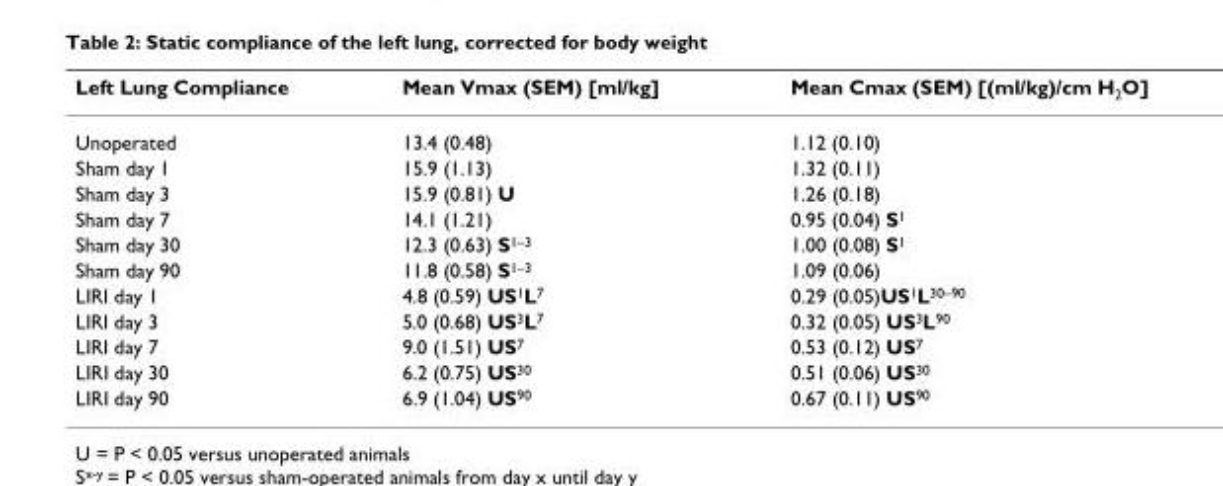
<table><thead><tr><td>Left Lung Compliance</td><td>Mean Vmax (SEM) [ml/kg]</td><td>Mean Cmax (SEM) [(ml/kg)/cm H<sub>2</sub>O]</td></tr></thead><tbody><tr><td>Unoperated</td><td>13.4 (0.48)</td><td>1.12 (0.10)</td></tr><tr><td>Sham day 1</td><td>15.9 (1.13)</td><td>1.32 (0.11)</td></tr><tr><td>Sham day 3</td><td>15.9 (0.81) U</td><td>1.26 (0.18)</td></tr><tr><td>Sham day 7</td><td>14.1 (1.21)</td><td>0.95 (0.04) S<sup>1</sup></td></tr><tr><td>Sham day 30</td><td>12.3 (0.63) S<sup>1–3</sup></td><td>1.00 (0.08) S<sup>1</sup></td></tr><tr><td>Sham day 90</td><td>11.8 (0.58) S<sup>1–3</sup></td><td>1.09 (0.06)</td></tr><tr><td>LIRI day 1</td><td>4.8 (0.59) US<sup>1</sup>L<sup>7</sup></td><td>0.29 (0.05)US<sup>1</sup>L<sup>30–90</sup></td></tr><tr><td>LIRI day 3</td><td>5.0 (0.68) US<sup>3</sup>L<sup>7</sup></td><td>0.32 (0.05) US<sup>3</sup>L<sup>90</sup></td></tr><tr><td>LIRI day 7</td><td>9.0 (1.51) US<sup>7</sup></td><td>0.53 (0.12) US<sup>7</sup></td></tr><tr><td>LIRI day 30</td><td>6.2 (0.75) US<sup>30</sup></td><td>0.51 (0.06) US<sup>30</sup></td></tr><tr><td>LIRI day 90</td><td>6.9 (1.04) US<sup>90</sup></td><td>0.67 (0.11) US<sup>90</sup></td></tr></tbody></table>